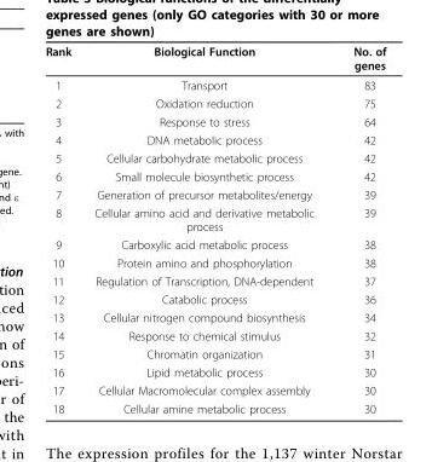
<table><thead><tr><td>Rank</td><td>Biological Function</td><td>No. of genes</td></tr></thead><tbody><tr><td>1</td><td>Transport</td><td>83</td></tr><tr><td>2</td><td>Oxidation reduction</td><td>75</td></tr><tr><td>3</td><td>Response to stress</td><td>64</td></tr><tr><td>4</td><td>DNA metabolic process</td><td>42</td></tr><tr><td>5</td><td>Cellular carbohydrate metabolic process</td><td>42</td></tr><tr><td>6</td><td>Small molecule biosynthetic process</td><td>42</td></tr><tr><td>7</td><td>Generation of precursor metabolites/energy</td><td>39</td></tr><tr><td>8</td><td>Cellular amino acid and derivative metabolic process</td><td>39</td></tr><tr><td>9</td><td>Carboxylic acid metabolic process</td><td>38</td></tr><tr><td>10</td><td>Protein amino and phosphorylation</td><td>38</td></tr><tr><td>11</td><td>Regulation of Transcription, DNA-dependent</td><td>37</td></tr><tr><td>12</td><td>Catabolic process</td><td>36</td></tr><tr><td>13</td><td>Cellular nitrogen compound biosynthesis</td><td>34</td></tr><tr><td>14</td><td>Response to chemical stimulus</td><td>32</td></tr><tr><td>15</td><td>Chromatin organization</td><td>31</td></tr><tr><td>16</td><td>Lipid metabolic process</td><td>30</td></tr><tr><td>17</td><td>Cellular Macromolecular complex assembly</td><td>30</td></tr><tr><td>18</td><td>Cellular amine metabolic process</td><td>30</td></tr></tbody></table>